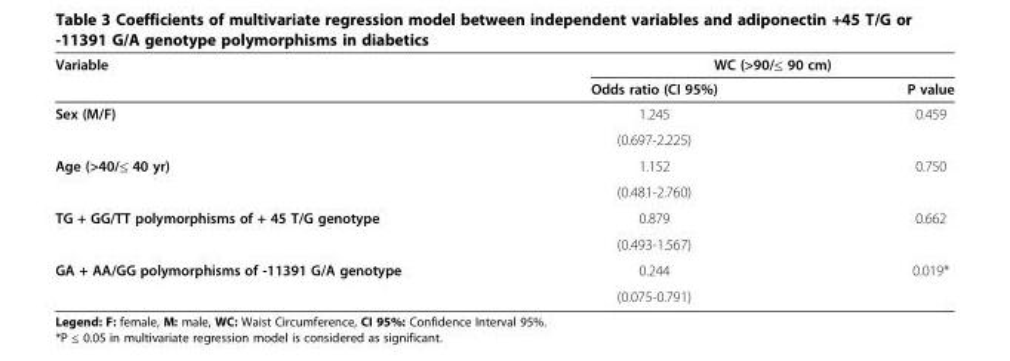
<table><thead><tr><td rowspan="2">Variable</td><td colspan="2">WC (&gt;90/≤ 90 cm)</td></tr><tr><td>Odds ratio (CI 95%)</td><td>P value</td></tr></thead><tbody><tr><td rowspan="2">Sex (M/F)</td><td>1.245</td><td rowspan="2">0.459</td></tr><tr><td>(0.697-2.225)</td></tr><tr><td rowspan="2">Age (&gt;40/≤ 40 yr)</td><td>1.152</td><td rowspan="2">0.750</td></tr><tr><td>(0.481-2.760)</td></tr><tr><td rowspan="2">TG + GG/TT polymorphisms of + 45 T/G genotype</td><td>0.879</td><td rowspan="2">0.662</td></tr><tr><td>(0.493-1.567)</td></tr><tr><td rowspan="2">GA + AA/GG polymorphisms of -11391 G/A genotype</td><td>0.244</td><td>0.019*</td></tr><tr><td>(0.075-0.791)</td><td></td></tr></tbody></table>